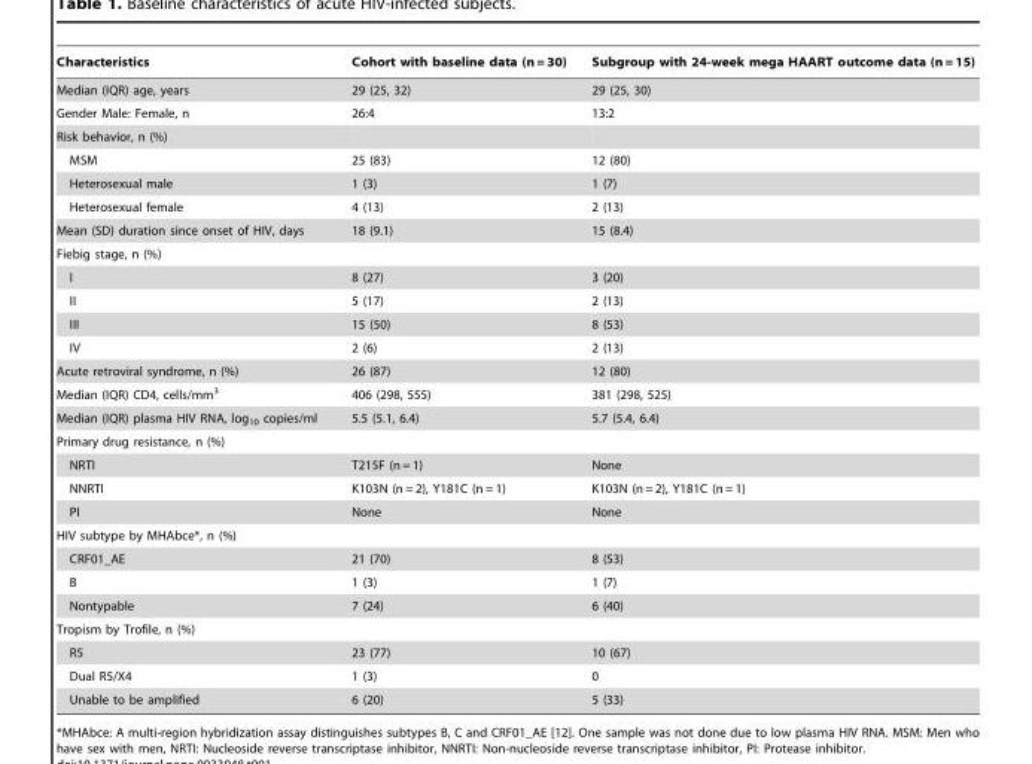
<table><thead><tr><td>Characteristics</td><td>Cohort with baseline data (n = 30)</td><td>Subgroup with 24-week mega HAART outcome data (n = 15)</td></tr></thead><tbody><tr><td>Median (IQR) age, years</td><td>29 (25, 32)</td><td>29 (25, 30)</td></tr><tr><td>Gender Male: Female, n</td><td>26:4</td><td>13:2</td></tr><tr><td colspan="3">Risk behavior, n (%)</td></tr><tr><td>MSM</td><td>25 (83)</td><td>12 (80)</td></tr><tr><td>Heterosexual male</td><td>1 (3)</td><td>1 (7)</td></tr><tr><td>Heterosexual female</td><td>4 (13)</td><td>2 (13)</td></tr><tr><td>Mean (SD) duration since onset of HIV, days</td><td>18 (9.1)</td><td>15 (8.4)</td></tr><tr><td colspan="3">Fiebig stage, n (%)</td></tr><tr><td>I</td><td>8 (27)</td><td>3 (20)</td></tr><tr><td>II</td><td>5 (17)</td><td>2 (13)</td></tr><tr><td>III</td><td>15 (50)</td><td>8 (53)</td></tr><tr><td>IV</td><td>2 (6)</td><td>2 (13)</td></tr><tr><td>Acute retroviral syndrome, n (%)</td><td>26 (87)</td><td>12 (80)</td></tr><tr><td>Median (IQR) CD4, cells/mm<sup>3</sup></td><td>406 (298, 555)</td><td>381 (298, 525)</td></tr><tr><td>Median (IQR) plasma HIV RNA, log<sub>10</sub> copies/ml</td><td>5.5 (5.1, 6.4)</td><td>5.7 (5.4, 6.4)</td></tr><tr><td colspan="3">Primary drug resistance, n (%)</td></tr><tr><td>NRTI</td><td>T215F (n = 1)</td><td>None</td></tr><tr><td>NNRTI</td><td>K103N (n = 2), Y181C (n = 1)</td><td>K103N (n = 2), Y181C (n = 1)</td></tr><tr><td>PI</td><td>None</td><td>None</td></tr><tr><td colspan="3">HIV subtype by MHAbce*, n (%)</td></tr><tr><td>CRF01_AE</td><td>21 (70)</td><td>8 (53)</td></tr><tr><td>B</td><td>1 (3)</td><td>1 (7)</td></tr><tr><td>Nontypable</td><td>7 (24)</td><td>6 (40)</td></tr><tr><td colspan="3">Tropism by Trofile, n (%)</td></tr><tr><td>R5</td><td>23 (77)</td><td>10 (67)</td></tr><tr><td>Dual R5/X4</td><td>1 (3)</td><td>0</td></tr><tr><td>Unable to be amplified</td><td>6 (20)</td><td>5 (33)</td></tr></tbody></table>